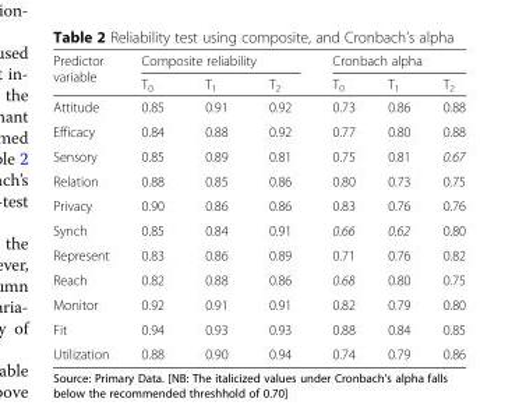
<table><thead><tr><td rowspan="2">Predictor variable</td><td colspan="3">Composite reliability</td><td colspan="3">Cronbach alpha</td></tr><tr><td>T<sub>0</sub></td><td>T<sub>1</sub></td><td>T<sub>2</sub></td><td>T<sub>0</sub></td><td>T<sub>1</sub></td><td>T<sub>2</sub></td></tr></thead><tbody><tr><td>Attitude</td><td>0.85</td><td>0.91</td><td>0.92</td><td>0.73</td><td>0.86</td><td>0.88</td></tr><tr><td>Efficacy</td><td>0.84</td><td>0.88</td><td>0.92</td><td>0.77</td><td>0.80</td><td>0.88</td></tr><tr><td>Sensory</td><td>0.85</td><td>0.89</td><td>0.81</td><td>0.75</td><td>0.81</td><td>0.67</td></tr><tr><td>Relation</td><td>0.88</td><td>0.85</td><td>0.86</td><td>0.80</td><td>0.73</td><td>0.75</td></tr><tr><td>Privacy</td><td>0.90</td><td>0.86</td><td>0.86</td><td>0.83</td><td>0.76</td><td>0.76</td></tr><tr><td>Synch</td><td>0.85</td><td>0.84</td><td>0.91</td><td>0.66</td><td>0.62</td><td>0.80</td></tr><tr><td>Represent</td><td>0.83</td><td>0.86</td><td>0.89</td><td>0.71</td><td>0.76</td><td>0.82</td></tr><tr><td>Reach</td><td>0.82</td><td>0.88</td><td>0.86</td><td>0.68</td><td>0.80</td><td>0.75</td></tr><tr><td>Monitor</td><td>0.92</td><td>0.91</td><td>0.91</td><td>0.82</td><td>0.79</td><td>0.80</td></tr><tr><td>Fit</td><td>0.94</td><td>0.93</td><td>0.93</td><td>0.88</td><td>0.84</td><td>0.85</td></tr><tr><td>Utilization</td><td>0.88</td><td>0.90</td><td>0.94</td><td>0.74</td><td>0.79</td><td>0.86</td></tr></tbody></table>